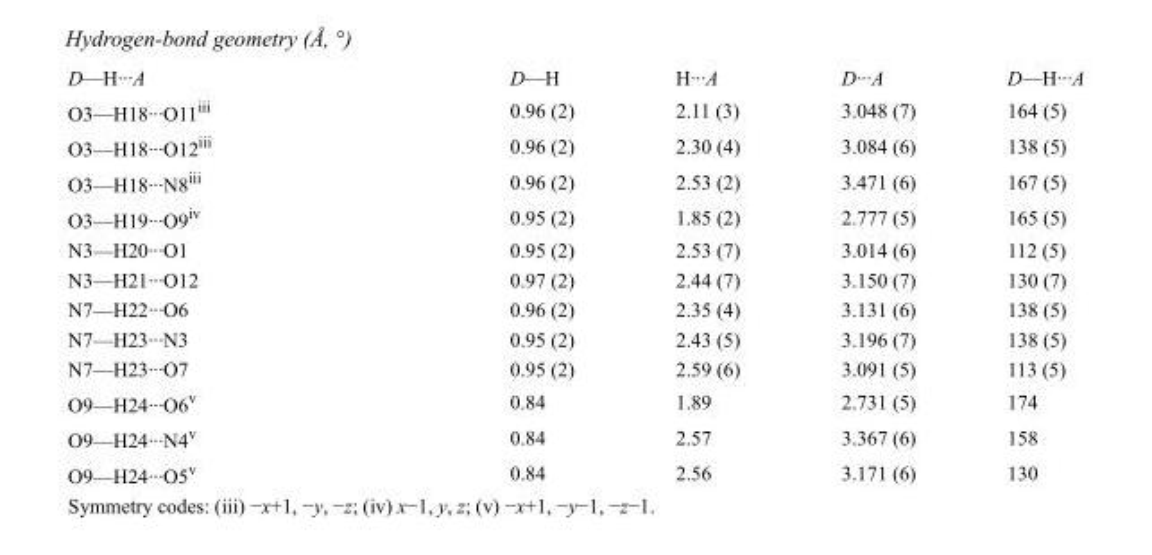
<table><tbody><tr><td>D—H···A</td><td>D—H</td><td>H···A</td><td>D···A</td><td>D—H···A</td></tr><tr><td>O3—H18···O11<sup>iii</sup></td><td>0.96 (2)</td><td>2.11 (3)</td><td>3.048 (7)</td><td>164 (5)</td></tr><tr><td>O3—H18···O12<sup>iii</sup></td><td>0.96 (2)</td><td>2.30 (4)</td><td>3.084 (6)</td><td>138 (5)</td></tr><tr><td>O3—H18···N8<sup>iii</sup></td><td>0.96 (2)</td><td>2.53 (2)</td><td>3.471 (6)</td><td>167 (5)</td></tr><tr><td>O3—H19···O9<sup>iv</sup></td><td>0.95 (2)</td><td>1.85 (2)</td><td>2.777 (5)</td><td>165 (5)</td></tr><tr><td>N3—H20···O1</td><td>0.95 (2)</td><td>2.53 (7)</td><td>3.014 (6)</td><td>112 (5)</td></tr><tr><td>N3—H21···O12</td><td>0.97 (2)</td><td>2.44 (7)</td><td>3.150 (7)</td><td>130 (7)</td></tr><tr><td>N7—H22···O6</td><td>0.96 (2)</td><td>2.35 (4)</td><td>3.131 (6)</td><td>138 (5)</td></tr><tr><td>N7—H23···N3</td><td>0.95 (2)</td><td>2.43 (5)</td><td>3.196 (7)</td><td>138 (5)</td></tr><tr><td>N7—H23···O7</td><td>0.95 (2)</td><td>2.59 (6)</td><td>3.091 (5)</td><td>113 (5)</td></tr><tr><td>O9—H24···O6<sup>v</sup></td><td>0.84</td><td>1.89</td><td>2.731 (5)</td><td>174</td></tr><tr><td>O9—H24···N4<sup>v</sup></td><td>0.84</td><td>2.57</td><td>3.367 (6)</td><td>158</td></tr><tr><td>O9—H24···O5<sup>v</sup></td><td>0.84</td><td>2.56</td><td>3.171 (6)</td><td>130</td></tr></tbody></table>